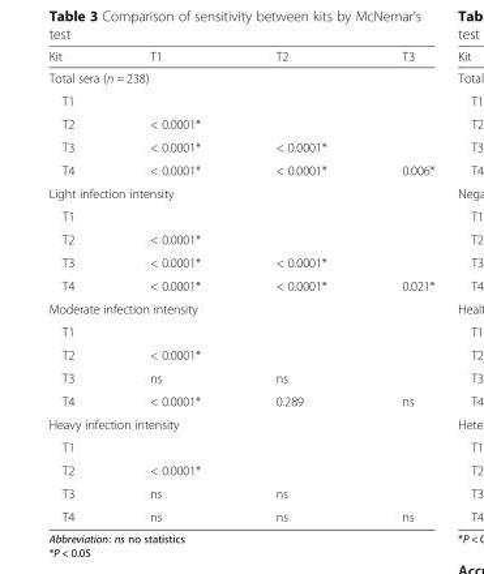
<table><thead><tr><td>Kit</td><td>T1</td><td>T2</td><td>T3</td></tr></thead><tbody><tr><td colspan="4">Total sera (n = 238)</td></tr><tr><td colspan="4">T1</td></tr><tr><td>T2</td><td>&lt; 0.0001*</td><td></td><td></td></tr><tr><td>T3</td><td>&lt; 0.0001*</td><td>&lt; 0.0001*</td><td></td></tr><tr><td>T4</td><td>&lt; 0.0001*</td><td>&lt; 0.0001*</td><td>0.006*</td></tr><tr><td colspan="4">Light infection intensity</td></tr><tr><td colspan="4">T1</td></tr><tr><td>T2</td><td>&lt; 0.0001*</td><td></td><td></td></tr><tr><td>T3</td><td>&lt; 0.0001*</td><td>&lt; 0.0001*</td><td></td></tr><tr><td>T4</td><td>&lt; 0.0001*</td><td>&lt; 0.0001*</td><td>0.021*</td></tr><tr><td colspan="4">Moderate infection intensity</td></tr><tr><td colspan="4">T1</td></tr><tr><td>T2</td><td>&lt; 0.0001*</td><td></td><td></td></tr><tr><td>T3</td><td>ns</td><td>ns</td><td></td></tr><tr><td>T4</td><td>&lt; 0.0001*</td><td>0.289</td><td>ns</td></tr><tr><td colspan="4">Heavy infection intensity</td></tr><tr><td colspan="4">T1</td></tr><tr><td>T2</td><td>&lt; 0.0001*</td><td></td><td></td></tr><tr><td>T3</td><td>ns</td><td>ns</td><td></td></tr><tr><td>T4</td><td>ns</td><td>ns</td><td>ns</td></tr></tbody></table>